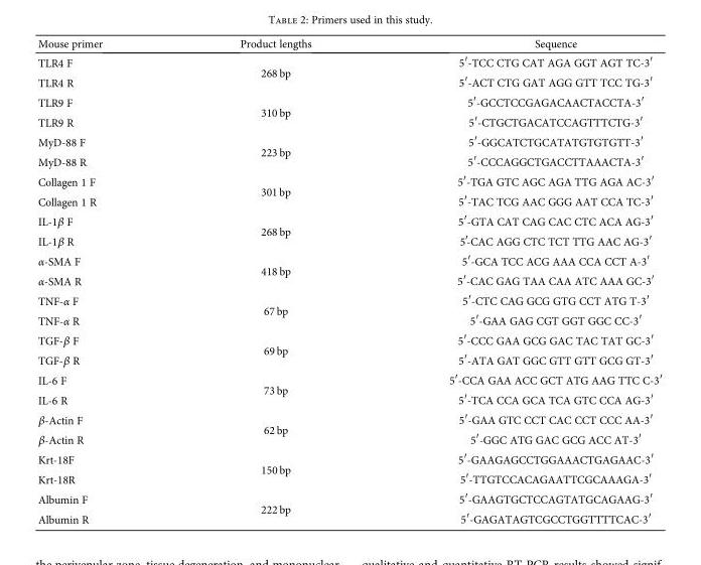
<table><thead><tr><td>Mouse primer</td><td>Product lengths</td><td>Sequence</td></tr></thead><tbody><tr><td>TLR4 F</td><td rowspan="2">268 bp</td><td>5′-TCC CTG CAT AGA GGT AGT TC-3′</td></tr><tr><td>TLR4 R</td><td>5′-ACT CTG GAT AGG GTT TCC TG-3′</td></tr><tr><td>TLR9 F</td><td rowspan="2">310 bp</td><td>5′-GCCTCCGAGACAACTACCTA-3′</td></tr><tr><td>TLR9 R</td><td>5′-CTGCTGACATCCAGTTTCTG-3′</td></tr><tr><td>MyD-88 F</td><td rowspan="2">223 bp</td><td>5′-GGCATCTGCATATGTGTGTT-3′</td></tr><tr><td>MyD-88 R</td><td>5′-CCCAGGCTGACCTTAAACTA-3′</td></tr><tr><td>Collagen 1 F</td><td rowspan="2">301 bp</td><td>5′-TGA GTC AGC AGA TTG AGA AC-3′</td></tr><tr><td>Collagen 1 R</td><td>5′-TAC TCG AAC GGG AAT CCA TC-3′</td></tr><tr><td>IL-1β F</td><td rowspan="2">268 bp</td><td>5′-GTA CAT CAG CAC CTC ACA AG-3′</td></tr><tr><td>IL-1β R</td><td>5′-CAC AGG CTC TCT TTG AAC AG-3′</td></tr><tr><td>α-SMA F</td><td rowspan="2">418 bp</td><td>5′-GCA TCC ACG AAA CCA CCT A-3′</td></tr><tr><td>α-SMA R</td><td>5′-CAC GAG TAA CAA ATC AAA GC-3′</td></tr><tr><td>TNF-α F</td><td rowspan="2">67 bp</td><td>5′-CTC CAG GCG GTG CCT ATG T-3′</td></tr><tr><td>TNF-α R</td><td>5′-GAA GAG CGT GGT GGC CC-3′</td></tr><tr><td>TGF-β F</td><td rowspan="2">69 bp</td><td>5′-CCC GAA GCG GAC TAC TAT GC-3′</td></tr><tr><td>TGF-β R</td><td>5′-ATA GAT GGC GTT GTT GCG GT-3′</td></tr><tr><td>IL-6 F</td><td rowspan="2">73 bp</td><td>5′-CCA GAA ACC GCT ATG AAG TTC C-3′</td></tr><tr><td>IL-6 R</td><td>5′-TCA CCA GCA TCA GTC CCA AG-3′</td></tr><tr><td>β-Actin F</td><td rowspan="2">62 bp</td><td>5′-GAA GTC CCT CAC CCT CCC AA-3′</td></tr><tr><td>β-Actin R</td><td>5′-GGC ATG GAC GCG ACC AT-3′</td></tr><tr><td>Krt-18F</td><td rowspan="2">150 bp</td><td>5′-GAAGAGCCTGGAAACTGAGAAC-3′</td></tr><tr><td>Krt-18R</td><td>5′-TTGTCCACAGAATTCGCAAAGA-3′</td></tr><tr><td>Albumin F</td><td rowspan="2">222 bp</td><td>5′-GAAGTGCTCCAGTATGCAGAAG-3′</td></tr><tr><td>Albumin R</td><td>5′-GAGATAGTCGCCTGGTTTTCAC-3′</td></tr></tbody></table>